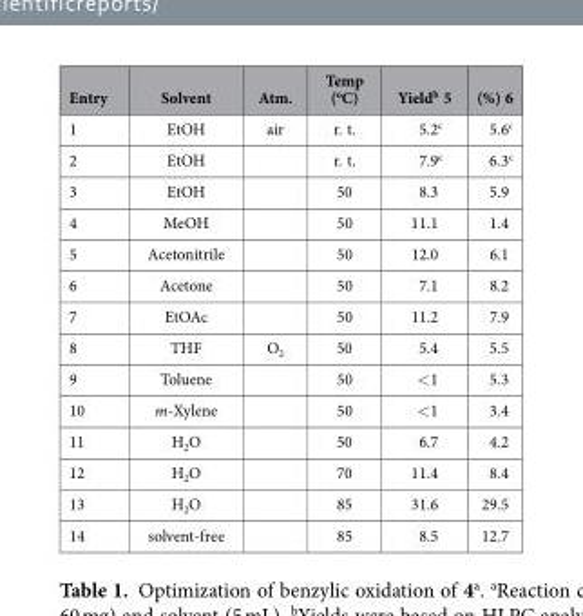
<table><thead><tr><td>Entry</td><td>Solvent</td><td>Atm.</td><td>Temp (°C)</td><td>Yield<sup>b</sup> 5</td><td>(%) 6</td></tr></thead><tbody><tr><td>1</td><td>EtOH</td><td>air</td><td>r. t.</td><td>5.2<sup>c</sup></td><td>5.6<sup>c</sup></td></tr><tr><td>2</td><td>EtOH</td><td></td><td>r. t.</td><td>7.9<sup>c</sup></td><td>6.3<sup>c</sup></td></tr><tr><td>3</td><td>EtOH</td><td></td><td>50</td><td>8.3</td><td>5.9</td></tr><tr><td>4</td><td>MeOH</td><td></td><td>50</td><td>11.1</td><td>1.4</td></tr><tr><td>5</td><td>Acetonitrile</td><td></td><td>50</td><td>12.0</td><td>6.1</td></tr><tr><td>6</td><td>Acetone</td><td></td><td>50</td><td>7.1</td><td>8.2</td></tr><tr><td>7</td><td>EtOAc</td><td></td><td>50</td><td>11.2</td><td>7.9</td></tr><tr><td>8</td><td>THF</td><td>O<sub>2</sub></td><td>50</td><td>5.4</td><td>5.5</td></tr><tr><td>9</td><td>Toluene</td><td></td><td>50</td><td>&lt; 1</td><td>5.3</td></tr><tr><td>10</td><td>m-Xylene</td><td></td><td>50</td><td>&lt; 1</td><td>3.4</td></tr><tr><td>11</td><td>H<sub>2</sub>O</td><td></td><td>50</td><td>6.7</td><td>4.2</td></tr><tr><td>12</td><td>H<sub>2</sub>O</td><td></td><td>70</td><td>11.4</td><td>8.4</td></tr><tr><td>13</td><td>H<sub>2</sub>O</td><td></td><td>85</td><td>31.6</td><td>29.5</td></tr><tr><td>14</td><td>solvent-free</td><td></td><td>85</td><td>8.5</td><td>12.7</td></tr></tbody></table>